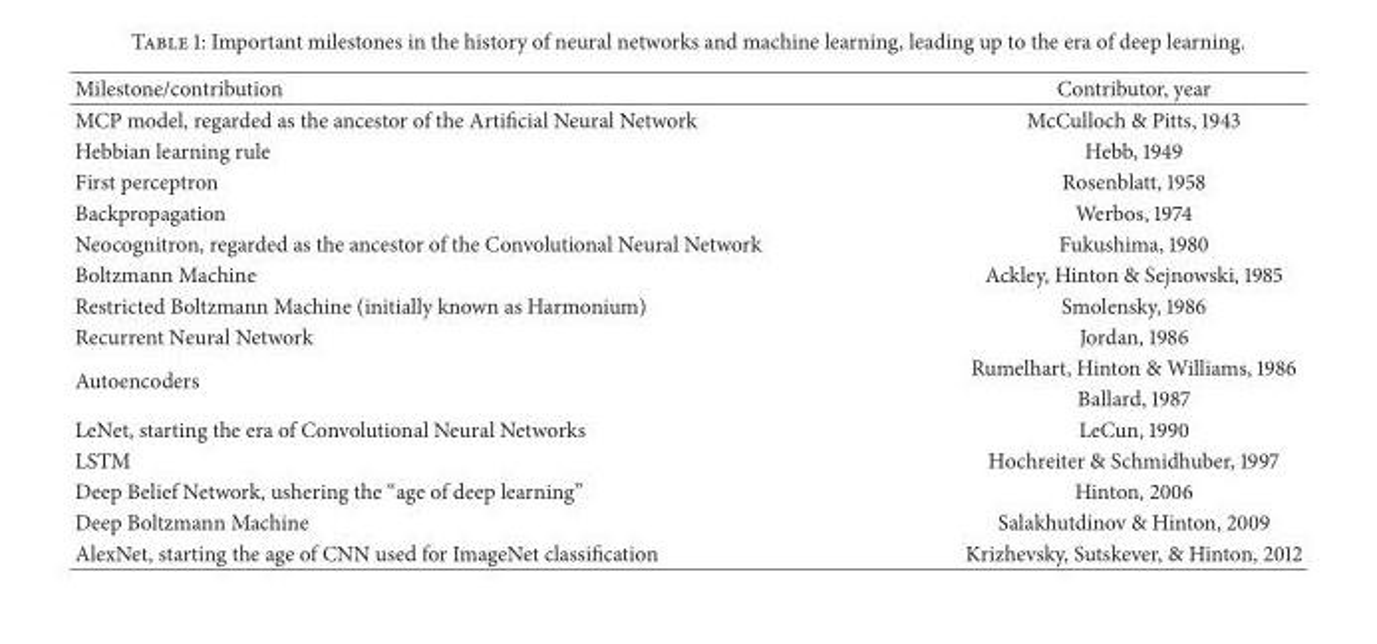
<table><thead><tr><td>Milestone/contribution</td><td>Contributor, year</td></tr></thead><tbody><tr><td>MCP model, regarded as the ancestor of the Artificial Neural Network</td><td>McCulloch &amp; Pitts, 1943</td></tr><tr><td>Hebbian learning rule</td><td>Hebb, 1949</td></tr><tr><td>First perceptron</td><td>Rosenblatt, 1958</td></tr><tr><td>Backpropagation</td><td>Werbos, 1974</td></tr><tr><td>Neocognitron, regarded as the ancestor of the Convolutional Neural Network</td><td>Fukushima, 1980</td></tr><tr><td>Boltzmann Machine</td><td>Ackley, Hinton &amp; Sejnowski, 1985</td></tr><tr><td>Restricted Boltzmann Machine (initially known as Harmonium)</td><td>Smolensky, 1986</td></tr><tr><td>Recurrent Neural Network</td><td>Jordan, 1986</td></tr><tr><td rowspan="2">Autoencoders</td><td>Rumelhart, Hinton &amp; Williams, 1986</td></tr><tr><td>Ballard, 1987</td></tr><tr><td>LeNet, starting the era of Convolutional Neural Networks</td><td>LeCun, 1990</td></tr><tr><td>LSTM</td><td>Hochreiter &amp; Schmidhuber, 1997</td></tr><tr><td>Deep Belief Network, ushering the “age of deep learning”</td><td>Hinton, 2006</td></tr><tr><td>Deep Boltzmann Machine</td><td>Salakhutdinov &amp; Hinton, 2009</td></tr><tr><td>AlexNet, starting the age of CNN used for ImageNet classification</td><td>Krizhevsky, Sutskever, &amp; Hinton, 2012</td></tr></tbody></table>